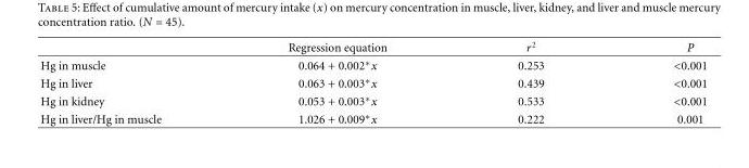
<table><thead><tr><td></td><td>Regression equation</td><td>r<sup>2</sup></td><td>P</td></tr></thead><tbody><tr><td>Hg in muscle</td><td>0.064 + 0.002∗x</td><td>0.253</td><td>&lt;0.001</td></tr><tr><td>Hg in liver</td><td>0.063 + 0.003∗x</td><td>0.439</td><td>&lt;0.001</td></tr><tr><td>Hg in kidney</td><td>0.053 + 0.003∗x</td><td>0.533</td><td>&lt;0.001</td></tr><tr><td>Hg in liver/Hg in muscle</td><td>1.026 + 0.009∗x</td><td>0.222</td><td>0.001</td></tr></tbody></table>